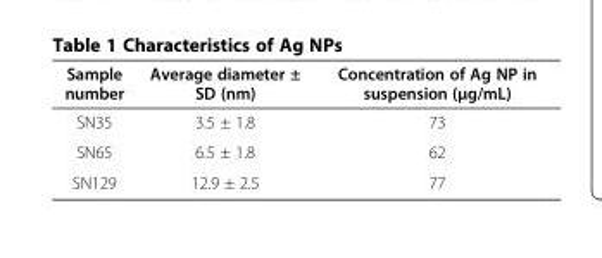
<table><thead><tr><td>Sample number</td><td>Average diameter ± SD (nm)</td><td>Concentration of Ag NP in suspension (μg/mL)</td></tr></thead><tbody><tr><td>SN35</td><td>3.5 ± 1.8</td><td>73</td></tr><tr><td>SN65</td><td>6.5 ± 1.8</td><td>62</td></tr><tr><td>SN129</td><td>12.9 ± 2.5</td><td>77</td></tr></tbody></table>